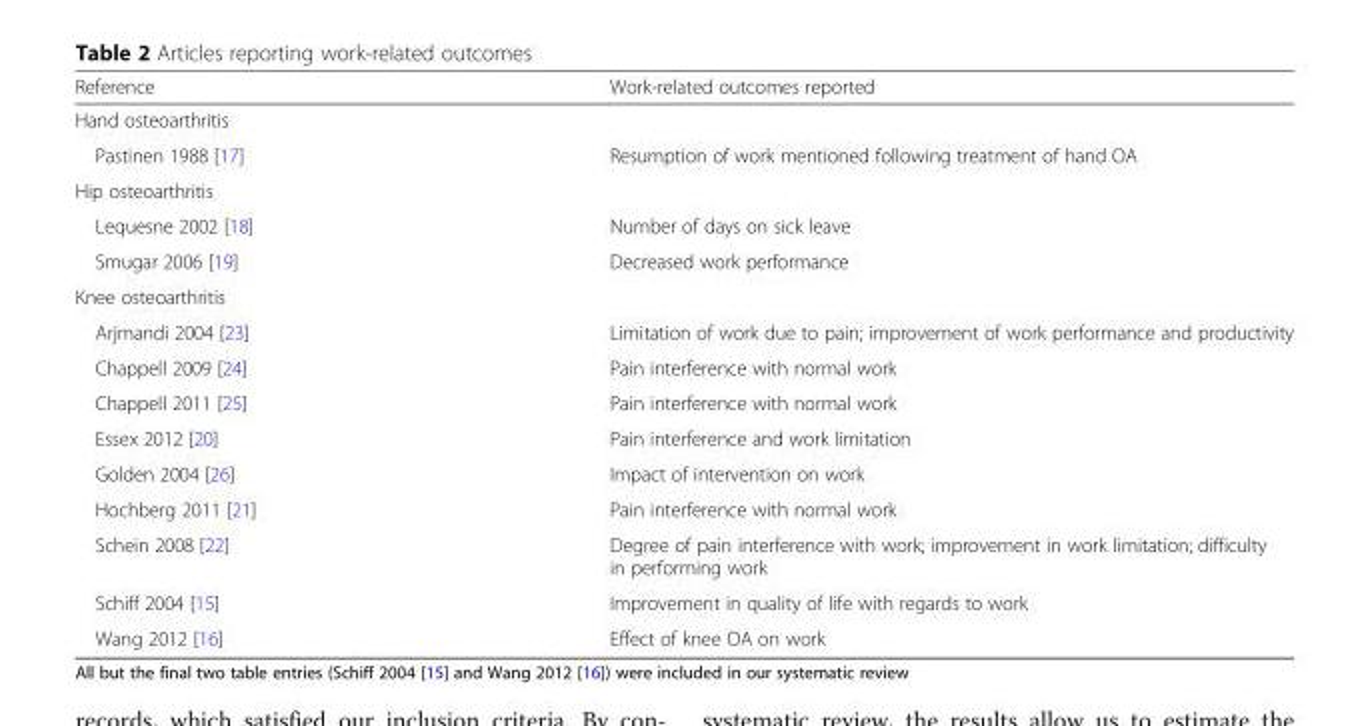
<table><thead><tr><td>Reference</td><td>Work-related outcomes reported</td></tr></thead><tbody><tr><td colspan="2">Hand osteoarthritis</td></tr><tr><td>Pastinen 1988 [17]</td><td>Resumption of work mentioned following treatment of hand OA</td></tr><tr><td colspan="2">Hip osteoarthritis</td></tr><tr><td>Lequesne 2002 [18]</td><td>Number of days on sick leave</td></tr><tr><td>Smugar 2006 [19]</td><td>Decreased work performance</td></tr><tr><td colspan="2">Knee osteoarthritis</td></tr><tr><td>Arjmandi 2004 [23]</td><td>Limitation of work due to pain; improvement of work performance and productivity</td></tr><tr><td>Chappell 2009 [24]</td><td>Pain interference with normal work</td></tr><tr><td>Chappell 2011 [25]</td><td>Pain interference with normal work</td></tr><tr><td>Essex 2012 [20]</td><td>Pain interference and work limitation</td></tr><tr><td>Golden 2004 [26]</td><td>Impact of intervention on work</td></tr><tr><td>Hochberg 2011 [21]</td><td>Pain interference with normal work</td></tr><tr><td>Schein 2008 [22]</td><td>Degree of pain interference with work; improvement in work limitation; difficulty in performing work</td></tr><tr><td>Schiff 2004 [15]</td><td>Improvement in quality of life with regards to work</td></tr><tr><td>Wang 2012 [16]</td><td>Effect of knee OA on work</td></tr></tbody></table>